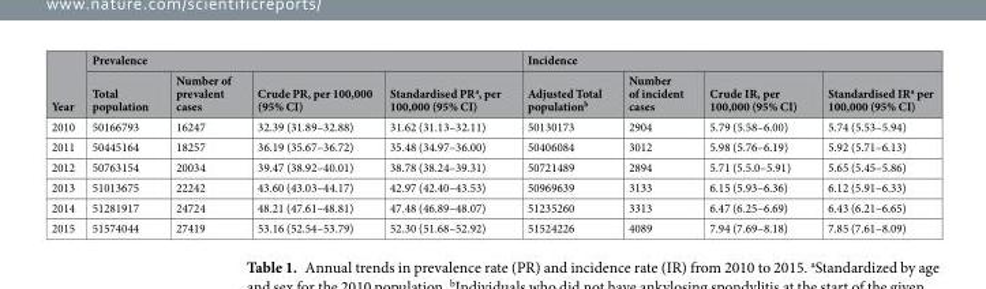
<table><thead><tr><td rowspan="2">Year</td><td colspan="4">Prevalence</td><td colspan="4">Incidence</td></tr><tr><td>Total population</td><td>Number of prevalent cases</td><td>Crude PR, per 100,000 (95% CI)</td><td>Standardised PR<sup>a</sup>, per 100,000 (95% CI)</td><td>Adjusted Total population<sup>b</sup></td><td>Number of incident cases</td><td>Crude IR, per 100,000 (95% CI)</td><td>Standardised IR<sup>a</sup> per 100,000 (95% CI)</td></tr></thead><tbody><tr><td>2010</td><td>50166793</td><td>16247</td><td>32.39 (31.89–32.88)</td><td>31.62 (31.13–32.11)</td><td>50130173</td><td>2904</td><td>5.79 (5.58–6.00)</td><td>5.74 (5.53–5.94)</td></tr><tr><td>2011</td><td>50445164</td><td>18257</td><td>36.19 (35.67–36.72)</td><td>35.48 (34.97–36.00)</td><td>50406084</td><td>3012</td><td>5.98 (5.76–6.19)</td><td>5.92 (5.71–6.13)</td></tr><tr><td>2012</td><td>50763154</td><td>20034</td><td>39.47 (38.92–40.01)</td><td>38.78 (38.24–39.31)</td><td>50721489</td><td>2894</td><td>5.71 (5.5.0–5.91)</td><td>5.65 (5.45–5.86)</td></tr><tr><td>2013</td><td>51013675</td><td>22242</td><td>43.60 (43.03–44.17)</td><td>42.97 (42.40–43.53)</td><td>50969639</td><td>3133</td><td>6.15 (5.93–6.36)</td><td>6.12 (5.91–6.33)</td></tr><tr><td>2014</td><td>51281917</td><td>24724</td><td>48.21 (47.61–48.81)</td><td>47.48 (46.89–48.07)</td><td>51235260</td><td>3313</td><td>6.47 (6.25–6.69)</td><td>6.43 (6.21–6.65)</td></tr><tr><td>2015</td><td>51574044</td><td>27419</td><td>53.16 (52.54–53.79)</td><td>52.30 (51.68–52.92)</td><td>51524226</td><td>4089</td><td>7.94 (7.69–8.18)</td><td>7.85 (7.61–8.09)</td></tr></tbody></table>